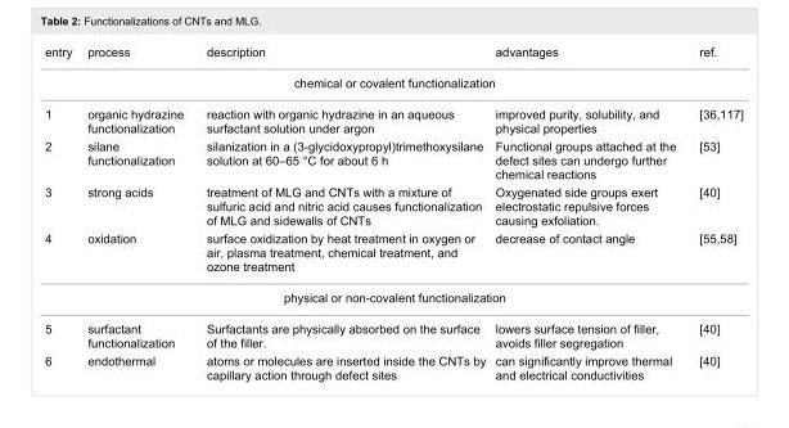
<table><tbody><tr><td>entry</td><td>process</td><td>description</td><td>advantages</td><td>ref.</td></tr><tr><td colspan="5">chemical or covalent functionalization</td></tr><tr><td>1</td><td>organic hydrazine functionalization</td><td>reaction with organic hydrazine in an aqueous surfactant solution under argon</td><td>improved purity, solubility, and physical properties</td><td>[36,117]</td></tr><tr><td>2</td><td>silane functionalization</td><td>silanization in a (3-glycidoxypropyl)trimethoxysilane solution at 60–65 °C for about 6 h</td><td>Functional groups attached at the defect sites can undergo further chemical reactions</td><td>[53]</td></tr><tr><td>3</td><td>strong acids</td><td>treatment of MLG and CNTs with a mixture of sulfuric acid and nitric acid causes functionalization of MLG and sidewalls of CNTs</td><td>Oxygenated side groups exert electrostatic repulsive forces causing exfoliation.</td><td>[40]</td></tr><tr><td>4</td><td>oxidation</td><td>surface oxidization by heat treatment in oxygen or air, plasma treatment, chemical treatment, and ozone treatment</td><td>decrease of contact angle</td><td>[55,58]</td></tr><tr><td colspan="5">physical or non-covalent functionalization</td></tr><tr><td>5</td><td>surfactant functionalization</td><td>Surfactants are physically absorbed on the surface of the filler.</td><td>lowers surface tension of filler, avoids filler segregation</td><td>[40]</td></tr><tr><td>6</td><td>endothermal</td><td>atoms or molecules are inserted inside the CNTs by capillary action through defect sites</td><td>can significantly improve thermal and electrical conductivities</td><td>[40]</td></tr></tbody></table>